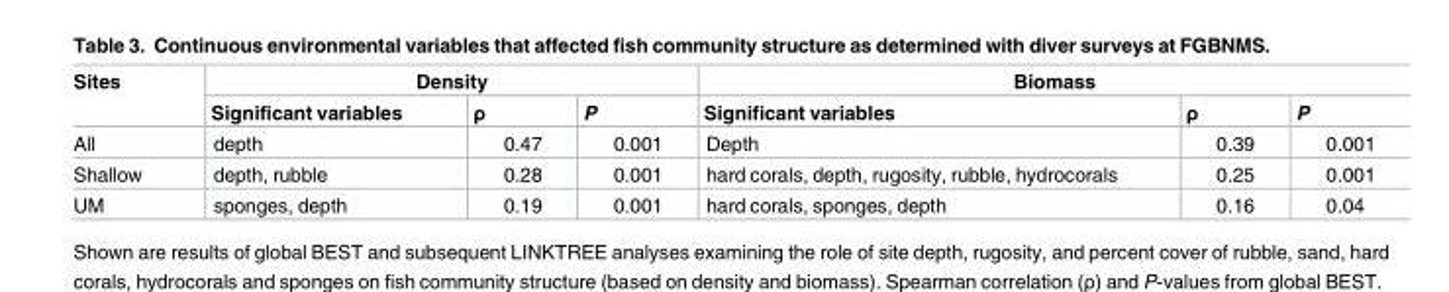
<table><thead><tr><td rowspan="2">Sites</td><td colspan="3">Density</td><td colspan="3">Biomass</td></tr><tr><td>Significant variables</td><td>ρ</td><td>P</td><td>Significant variables</td><td>ρ</td><td>P</td></tr></thead><tbody><tr><td>All</td><td>depth</td><td>0.47</td><td>0.001</td><td>Depth</td><td>0.39</td><td>0.001</td></tr><tr><td>Shallow</td><td>depth, rubble</td><td>0.28</td><td>0.001</td><td>hard corals, depth, rugosity, rubble, hydrocorals</td><td>0.25</td><td>0.001</td></tr><tr><td>UM</td><td>sponges, depth</td><td>0.19</td><td>0.001</td><td>hard corals, sponges, depth</td><td>0.16</td><td>0.04</td></tr></tbody></table>